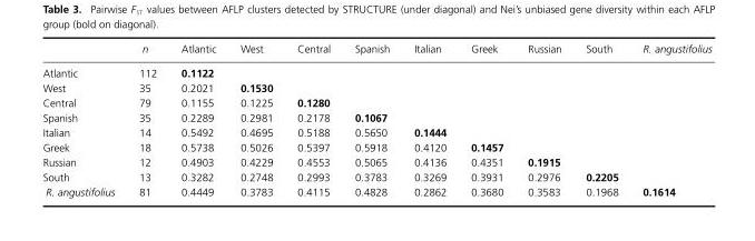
<table><thead><tr><td></td><td>n</td><td>Atlantic</td><td>West</td><td>Central</td><td>Spanish</td><td>Italian</td><td>Greek</td><td>Russian</td><td>South</td><td>R. angustifolius</td></tr></thead><tbody><tr><td>Atlantic</td><td>112</td><td>0.1122</td><td></td><td></td><td></td><td></td><td></td><td></td><td></td><td></td></tr><tr><td>West</td><td>35</td><td>0.2021</td><td>0.1530</td><td></td><td></td><td></td><td></td><td></td><td></td><td></td></tr><tr><td>Central</td><td>79</td><td>0.1155</td><td>0.1225</td><td>0.1280</td><td></td><td></td><td></td><td></td><td></td><td></td></tr><tr><td>Spanish</td><td>35</td><td>0.2289</td><td>0.2981</td><td>0.2178</td><td>0.1067</td><td></td><td></td><td></td><td></td><td></td></tr><tr><td>Italian</td><td>14</td><td>0.5492</td><td>0.4695</td><td>0.5188</td><td>0.5650</td><td>0.1444</td><td></td><td></td><td></td><td></td></tr><tr><td>Greek</td><td>18</td><td>0.5738</td><td>0.5026</td><td>0.5397</td><td>0.5918</td><td>0.4120</td><td>0.1457</td><td></td><td></td><td></td></tr><tr><td>Russian</td><td>12</td><td>0.4903</td><td>0.4229</td><td>0.4553</td><td>0.5065</td><td>0.4136</td><td>0.4351</td><td>0.1915</td><td></td><td></td></tr><tr><td>South</td><td>13</td><td>0.3282</td><td>0.2748</td><td>0.2993</td><td>0.3783</td><td>0.3269</td><td>0.3931</td><td>0.2976</td><td>0.2205</td><td></td></tr><tr><td>R. angustifolius</td><td>81</td><td>0.4449</td><td>0.3783</td><td>0.4115</td><td>0.4828</td><td>0.2862</td><td>0.3680</td><td>0.3583</td><td>0.1968</td><td>0.1614</td></tr></tbody></table>